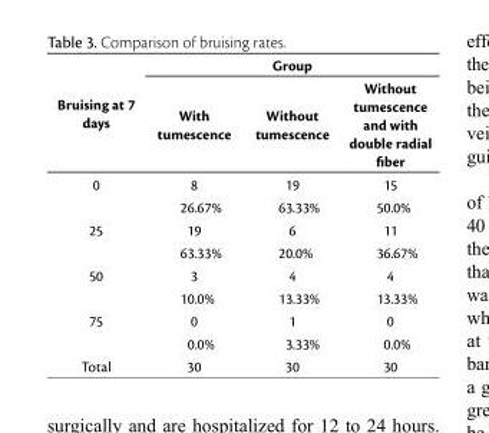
<table><thead><tr><td rowspan="2">Bruising at 7 days</td><td colspan="3">Group</td></tr><tr><td>With tumescence</td><td>Without tumescence</td><td>Without tumescence and with double radial fiber</td></tr></thead><tbody><tr><td rowspan="2">0</td><td>8</td><td>19</td><td>15</td></tr><tr><td>26.67%</td><td>63.33%</td><td>50.0%</td></tr><tr><td rowspan="2">25</td><td>19</td><td>6</td><td>11</td></tr><tr><td>63.33%</td><td>20.0%</td><td>36.67%</td></tr><tr><td rowspan="2">50</td><td>3</td><td>4</td><td>4</td></tr><tr><td>10.0%</td><td>13.33%</td><td>13.33%</td></tr><tr><td rowspan="2">75</td><td>0</td><td>1</td><td>0</td></tr><tr><td>0.0%</td><td>3.33%</td><td>0.0%</td></tr><tr><td>Total</td><td>30</td><td>30</td><td>30</td></tr></tbody></table>